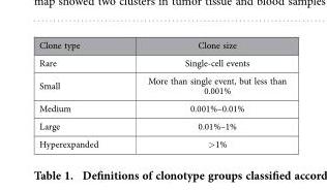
<table><thead><tr><td>Clone type</td><td>Clone size</td></tr></thead><tbody><tr><td>Rare</td><td>Single-cell events</td></tr><tr><td>Small</td><td>More than single event, but less than 0.001%</td></tr><tr><td>Medium</td><td>0.001%–0.01%</td></tr><tr><td>Large</td><td>0.01%–1%</td></tr><tr><td>Hyperexpanded</td><td>&gt; 1%</td></tr></tbody></table>